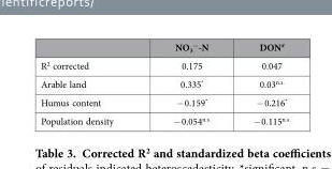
<table><thead><tr><td></td><td>NO<sub>3</sub> <sup>−</sup>-N</td><td>DON#</td></tr></thead><tbody><tr><td>R<sup>2</sup> corrected</td><td>0.175</td><td>0.047</td></tr><tr><td>Arable land</td><td>0.335*</td><td>0.03<sup>n.s.</sup></td></tr><tr><td>Humus content</td><td>− 0.159*</td><td>− 0.216*</td></tr><tr><td>Population density</td><td>− 0.054<sup>n.s.</sup></td><td>− 0.115<sup>n.s.</sup></td></tr></tbody></table>